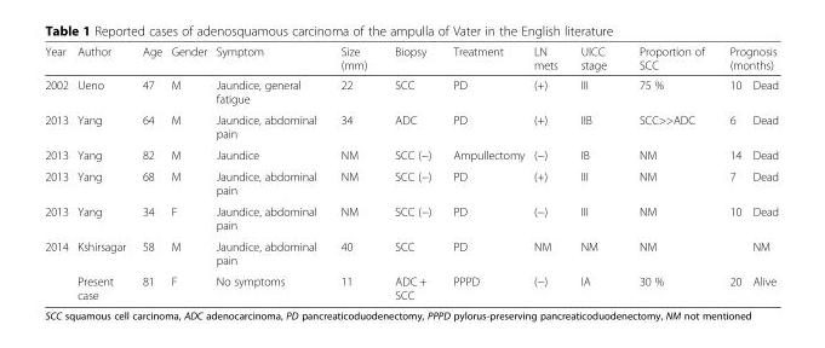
<table><thead><tr><td rowspan="2">Year 2002</td><td rowspan="2">Author Ueno</td><td rowspan="2">Age 47</td><td rowspan="2">Gender M</td><td rowspan="2">Symptom Jaundice, general fatigue</td><td rowspan="2">Size (mm) 22</td><td rowspan="2">Biopsy SCC</td><td rowspan="2">Treatment PD</td><td rowspan="2">LN mets (+)</td><td rowspan="2">UICC stage III</td><td rowspan="2">Proportion of SCC 75 %</td><td colspan="2">Prognosis (months)</td></tr><tr><td>10</td><td>Dead</td></tr></thead><tbody><tr><td>2013</td><td>Yang</td><td>64</td><td>M</td><td>Jaundice, abdominal pain</td><td>34</td><td>ADC</td><td>PD</td><td>(+)</td><td>IIB</td><td>SCC&gt;&gt;ADC</td><td>6</td><td>Dead</td></tr><tr><td>2013</td><td>Yang</td><td>82</td><td>M</td><td>Jaundice</td><td>NM</td><td>SCC (−)</td><td>Ampullectomy</td><td>(−)</td><td>IB</td><td>NM</td><td>14</td><td>Dead</td></tr><tr><td>2013</td><td>Yang</td><td>68</td><td>M</td><td>Jaundice, abdominal pain</td><td>NM</td><td>SCC (−)</td><td>PD</td><td>(+)</td><td>III</td><td>NM</td><td>7</td><td>Dead</td></tr><tr><td>2013</td><td>Yang</td><td>34</td><td>F</td><td>Jaundice, abdominal pain</td><td>NM</td><td>SCC (−)</td><td>PD</td><td>(−)</td><td>III</td><td>NM</td><td>10</td><td>Dead</td></tr><tr><td rowspan="2">2014</td><td>Kshirsagar</td><td>58</td><td>M</td><td>Jaundice, abdominal pain</td><td>40</td><td>SCC</td><td>PD</td><td>NM</td><td>NM</td><td>NM</td><td></td><td>NM</td></tr><tr><td>Present case</td><td>81</td><td>F</td><td>No symptoms</td><td>11</td><td>ADC + SCC</td><td>PPPD</td><td>(−)</td><td>IA</td><td>30 %</td><td>20</td><td>Alive</td></tr></tbody></table>